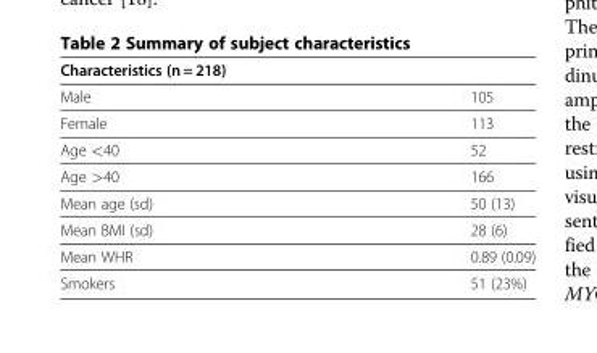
<table><thead><tr><td>Characteristics (n = 218)</td><td></td></tr></thead><tbody><tr><td>Male</td><td>105</td></tr><tr><td>Female</td><td>113</td></tr><tr><td>Age &lt;40</td><td>52</td></tr><tr><td>Age &gt;40</td><td>166</td></tr><tr><td>Mean age (sd)</td><td>50 (13)</td></tr><tr><td>Mean BMI (sd)</td><td>28 (6)</td></tr><tr><td>Mean WHR</td><td>0.89 (0.09)</td></tr><tr><td>Smokers</td><td>51 (23%)</td></tr></tbody></table>